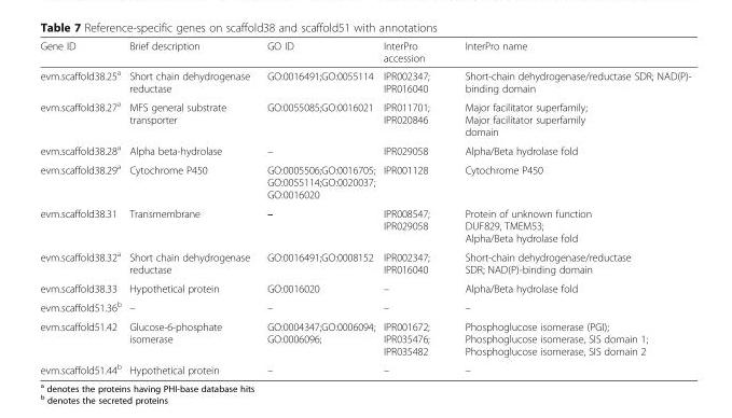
<table><thead><tr><td>Gene ID</td><td>Brief description</td><td>GO ID</td><td>InterPro accession</td><td>InterPro name</td></tr></thead><tbody><tr><td>evm.scaffold38.25<sup>a</sup></td><td>Short chain dehydrogenase reductase</td><td>GO:0016491;GO:0055114</td><td>IPR002347; IPR016040</td><td>Short-chain dehydrogenase/reductase SDR; NAD(P)- binding domain</td></tr><tr><td>evm.scaffold38.27<sup>a</sup></td><td>MFS general substrate transporter</td><td>GO:0055085;GO:0016021</td><td>IPR011701; IPR020846</td><td>Major facilitator superfamily; Major facilitator superfamily domain</td></tr><tr><td>evm.scaffold38.28<sup>a</sup></td><td>Alpha beta-hydrolase</td><td>–</td><td>IPR029058</td><td>Alpha/Beta hydrolase fold</td></tr><tr><td>evm.scaffold38.29<sup>a</sup></td><td>Cytochrome P450</td><td>GO:0005506;GO:0016705; GO:0055114;GO:0020037; GO:0016020</td><td>IPR001128</td><td>Cytochrome P450</td></tr><tr><td>evm.scaffold38.31</td><td>Transmembrane</td><td>–</td><td>IPR008547; IPR029058</td><td>Protein of unknown function DUF829, TMEM53; Alpha/Beta hydrolase fold</td></tr><tr><td>evm.scaffold38.32<sup>a</sup></td><td>Short chain dehydrogenase reductase</td><td>GO:0016491;GO:0008152</td><td>IPR002347; IPR016040</td><td>Short-chain dehydrogenase/reductase SDR; NAD(P)-binding domain</td></tr><tr><td>evm.scaffold38.33</td><td>Hypothetical protein</td><td>GO:0016020</td><td>–</td><td>Alpha/Beta hydrolase fold</td></tr><tr><td>evm.scaffold51.36<sup>b</sup></td><td>–</td><td>–</td><td>–</td><td>–</td></tr><tr><td>evm.scaffold51.42</td><td>Glucose-6-phosphate isomerase</td><td>GO:0004347;GO:0006094; GO:0006096;</td><td>IPR001672; IPR035476; IPR035482</td><td>Phosphoglucose isomerase (PGI); Phosphoglucose isomerase, SIS domain 1; Phosphoglucose isomerase, SIS domain 2</td></tr><tr><td>evm.scaffold51.44<sup>b</sup></td><td>Hypothetical protein</td><td>–</td><td>–</td><td>–</td></tr></tbody></table>